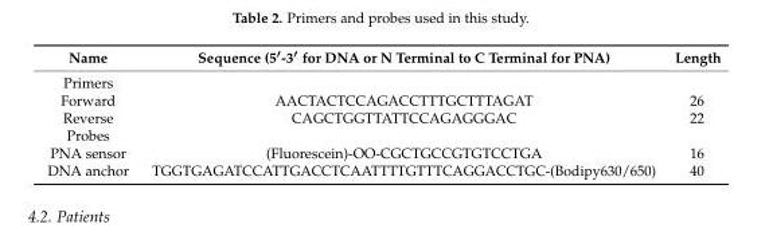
<table><thead><tr><td>Name</td><td>Sequence (5′-3′ for DNA or N Terminal to C Terminal for PNA)</td><td>Length</td></tr></thead><tbody><tr><td colspan="3">Primers</td></tr><tr><td>Forward</td><td>AACTACTCCAGACCTTTGCTTTAGAT</td><td>26</td></tr><tr><td>Reverse</td><td>CAGCTGGTTATTCCAGAGGGAC</td><td>22</td></tr><tr><td colspan="3">Probes</td></tr><tr><td>PNA sensor</td><td>(Fluorescein)-OO-CGCTGCCGTGTCCTGA</td><td>16</td></tr><tr><td>DNA anchor</td><td>TGGTGAGATCCATTGACCTCAATTTTGTTTCAGGACCTGC-(Bodipy630/650)</td><td>40</td></tr></tbody></table>